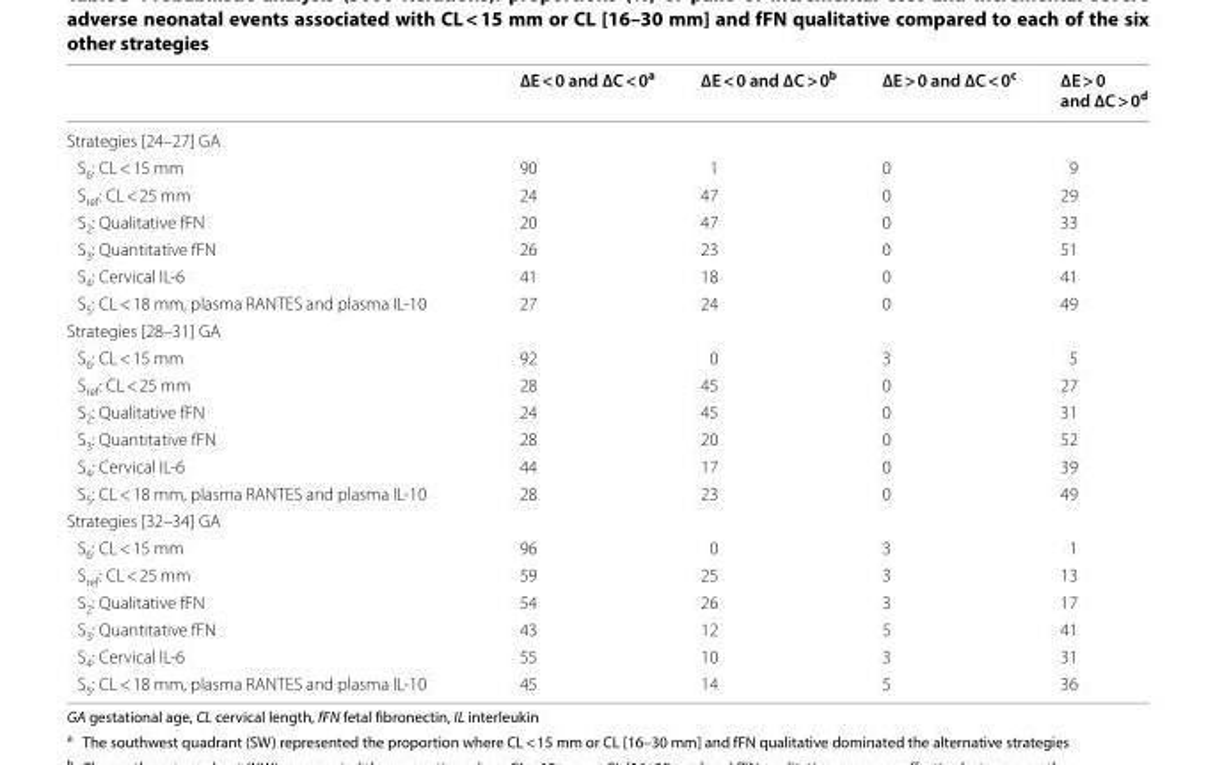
<table><thead><tr><td></td><td>∆E &lt; 0 and ∆C &lt; 0<sup>a</sup></td><td>∆E &lt; 0 and ∆C &gt; 0<sup>b</sup></td><td>∆E &gt; 0 and ∆C &lt; 0<sup>c</sup></td><td>∆E &gt; 0 and ∆C &gt; 0<sup>d</sup></td></tr></thead><tbody><tr><td colspan="5">Strategies [24–27] GA</td></tr><tr><td>S<sub>6</sub>: CL &lt; 15 mm</td><td>90</td><td>1</td><td>0</td><td>9</td></tr><tr><td>S<sub>ref</sub>: CL &lt; 25 mm</td><td>24</td><td>47</td><td>0</td><td>29</td></tr><tr><td>S<sub>2</sub>: Qualitative fFN</td><td>20</td><td>47</td><td>0</td><td>33</td></tr><tr><td>S<sub>3</sub>: Quantitative fFN</td><td>26</td><td>23</td><td>0</td><td>51</td></tr><tr><td>S<sub>4</sub>: Cervical IL-6</td><td>41</td><td>18</td><td>0</td><td>41</td></tr><tr><td>S<sub>5</sub>: CL &lt; 18 mm, plasma RANTES and plasma IL-10</td><td>27</td><td>24</td><td>0</td><td>49</td></tr><tr><td colspan="5">Strategies [28–31] GA</td></tr><tr><td>S<sub>6</sub>: CL &lt; 15 mm</td><td>92</td><td>0</td><td>3</td><td>5</td></tr><tr><td>S<sub>ref</sub>: CL &lt; 25 mm</td><td>28</td><td>45</td><td>0</td><td>27</td></tr><tr><td>S<sub>2</sub>: Qualitative fFN</td><td>24</td><td>45</td><td>0</td><td>31</td></tr><tr><td>S<sub>3</sub>: Quantitative fFN</td><td>28</td><td>20</td><td>0</td><td>52</td></tr><tr><td>S<sub>4</sub>: Cervical IL-6</td><td>44</td><td>17</td><td>0</td><td>39</td></tr><tr><td>S<sub>5</sub>: CL &lt; 18 mm, plasma RANTES and plasma IL-10</td><td>28</td><td>23</td><td>0</td><td>49</td></tr><tr><td colspan="5">Strategies [32–34] GA</td></tr><tr><td>S<sub>6</sub>: CL &lt; 15 mm</td><td>96</td><td>0</td><td>3</td><td>1</td></tr><tr><td>S<sub>ref</sub>: CL &lt; 25 mm</td><td>59</td><td>25</td><td>3</td><td>13</td></tr><tr><td>S<sub>2</sub>: Qualitative fFN</td><td>54</td><td>26</td><td>3</td><td>17</td></tr><tr><td>S<sub>3</sub>: Quantitative fFN</td><td>43</td><td>12</td><td>5</td><td>41</td></tr><tr><td>S<sub>4</sub>: Cervical IL-6</td><td>55</td><td>10</td><td>3</td><td>31</td></tr><tr><td>S<sub>5</sub>: CL &lt; 18 mm, plasma RANTES and plasma IL-10</td><td>45</td><td>14</td><td>5</td><td>36</td></tr></tbody></table>